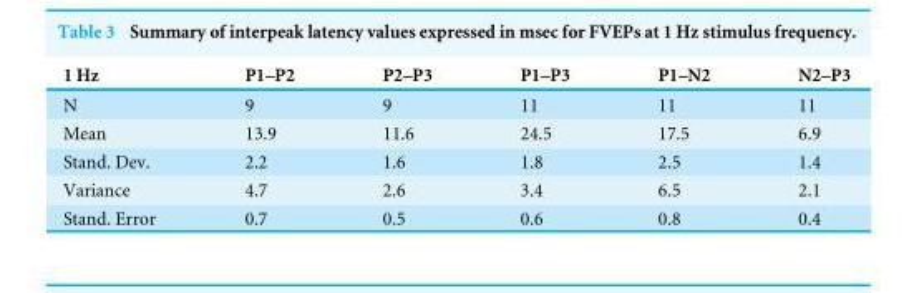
<table><thead><tr><td>1 Hz</td><td>P1–P2</td><td>P2–P3</td><td>P1–P3</td><td>P1–N2</td><td>N2–P3</td></tr></thead><tbody><tr><td>N</td><td>9</td><td>9</td><td>11</td><td>11</td><td>11</td></tr><tr><td>Mean</td><td>13.9</td><td>11.6</td><td>24.5</td><td>17.5</td><td>6.9</td></tr><tr><td>Stand. Dev.</td><td>2.2</td><td>1.6</td><td>1.8</td><td>2.5</td><td>1.4</td></tr><tr><td>Variance</td><td>4.7</td><td>2.6</td><td>3.4</td><td>6.5</td><td>2.1</td></tr><tr><td>Stand. Error</td><td>0.7</td><td>0.5</td><td>0.6</td><td>0.8</td><td>0.4</td></tr></tbody></table>